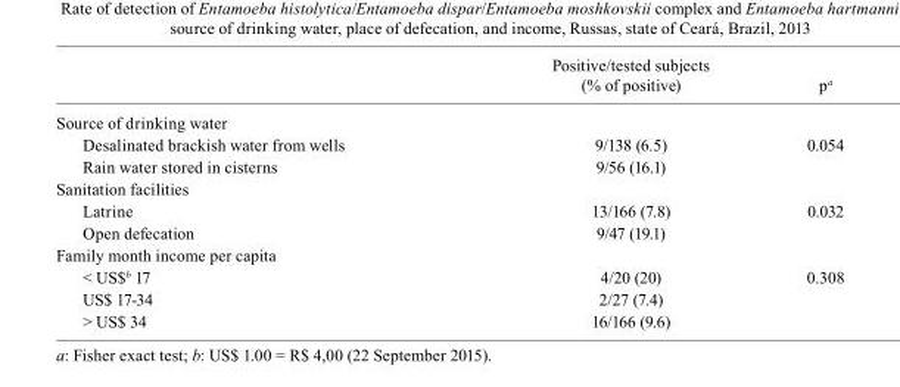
<table><thead><tr><td></td><td>Positive/tested subjects (% of positive)</td><td>p<sup>a</sup></td></tr></thead><tbody><tr><td colspan="3">Source of drinking water</td></tr><tr><td>Desalinated brackish water from wells</td><td>9/138 (6.5)</td><td rowspan="2">0.054</td></tr><tr><td>Rain water stored in cisterns</td><td>9/56 (16.1)</td></tr><tr><td colspan="3">Sanitation facilities</td></tr><tr><td>Latrine</td><td>13/166 (7.8)</td><td rowspan="2">0.032</td></tr><tr><td>Open defecation</td><td>9/47 (19.1)</td></tr><tr><td colspan="3">Family month income per capita</td></tr><tr><td>&lt; US$<sup>b</sup> 17</td><td>4/20 (20)</td><td rowspan="3">0.308</td></tr><tr><td>US$ 17-34</td><td>2/27 (7.4)</td></tr><tr><td>&gt; US$ 34</td><td>16/166 (9.6)</td></tr></tbody></table>